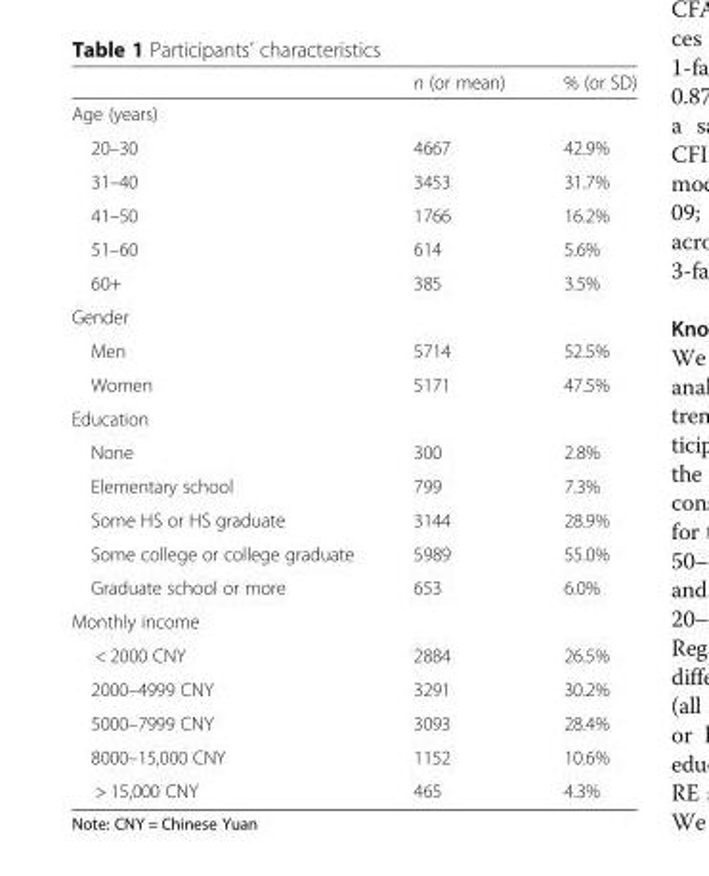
<table><thead><tr><td></td><td>n (or mean)</td><td>% (or SD)</td></tr></thead><tbody><tr><td colspan="3">Age (years)</td></tr><tr><td>20–30</td><td>4667</td><td>42.9%</td></tr><tr><td>31–40</td><td>3453</td><td>31.7%</td></tr><tr><td>41–50</td><td>1766</td><td>16.2%</td></tr><tr><td>51–60</td><td>614</td><td>5.6%</td></tr><tr><td>60+</td><td>385</td><td>3.5%</td></tr><tr><td colspan="3">Gender</td></tr><tr><td>Men</td><td>5714</td><td>52.5%</td></tr><tr><td>Women</td><td>5171</td><td>47.5%</td></tr><tr><td colspan="3">Education</td></tr><tr><td>None</td><td>300</td><td>2.8%</td></tr><tr><td>Elementary school</td><td>799</td><td>7.3%</td></tr><tr><td>Some HS or HS graduate</td><td>3144</td><td>28.9%</td></tr><tr><td>Some college or college graduate</td><td>5989</td><td>55.0%</td></tr><tr><td>Graduate school or more</td><td>653</td><td>6.0%</td></tr><tr><td colspan="3">Monthly income</td></tr><tr><td>&lt; 2000 CNY</td><td>2884</td><td>26.5%</td></tr><tr><td>2000–4999 CNY</td><td>3291</td><td>30.2%</td></tr><tr><td>5000–7999 CNY</td><td>3093</td><td>28.4%</td></tr><tr><td>8000–15,000 CNY</td><td>1152</td><td>10.6%</td></tr><tr><td>&gt; 15,000 CNY</td><td>465</td><td>4.3%</td></tr></tbody></table>